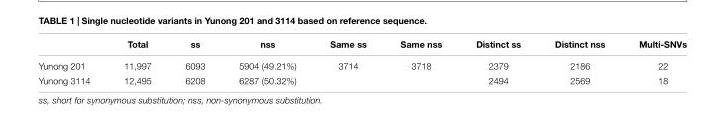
<table><thead><tr><td></td><td>Total</td><td>ss</td><td>nss</td><td>Same ss</td><td>Same nss</td><td>Distinct ss</td><td>Distinct nss</td><td>Multi-SNVs</td></tr></thead><tbody><tr><td>Yunong 201</td><td>11,997</td><td>6093</td><td>5904 (49.21%)</td><td>3714</td><td>3718</td><td>2379</td><td>2186</td><td>22</td></tr><tr><td>Yunong 3114</td><td>12,495</td><td>6208</td><td>6287 (50.32%)</td><td></td><td></td><td>2494</td><td>2569</td><td>18</td></tr></tbody></table>